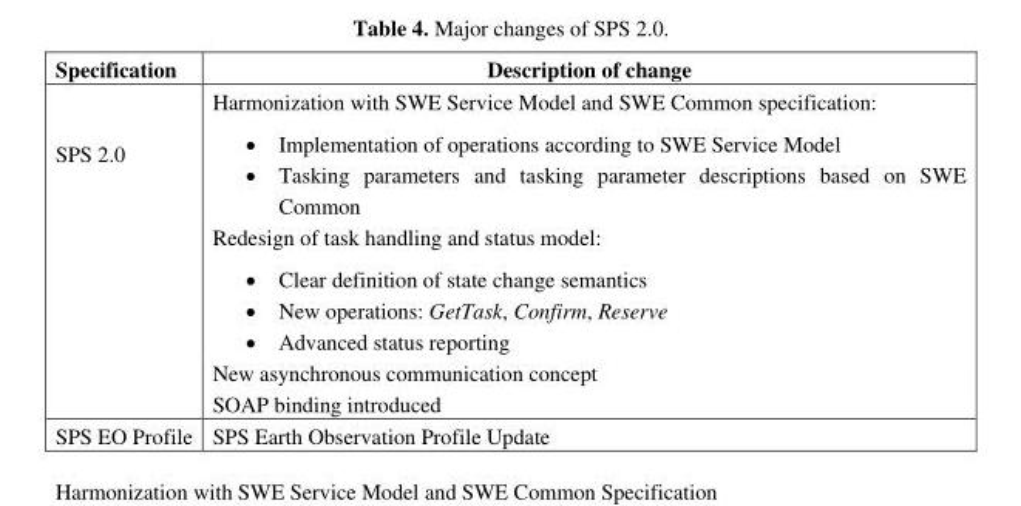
<table><thead><tr><td>Specification</td><td>Description of change</td></tr></thead><tbody><tr><td rowspan="2">SPS 2.0</td><td>Harmonization with SWE Service Model and SWE Common specification:  Implementation of operations according to SWE Service Model  Tasking parameters and tasking parameter descriptions based on SWE Common</td></tr><tr><td>Redesign of task handling and status model:  Clear definition of state change semantics  New operations: GetTask, Confirm, Reserve  Advanced status reporting New asynchronous communication concept SOAP binding introduced</td></tr><tr><td>SPS EO Profile</td><td>SPS Earth Observation Profile Update</td></tr></tbody></table>